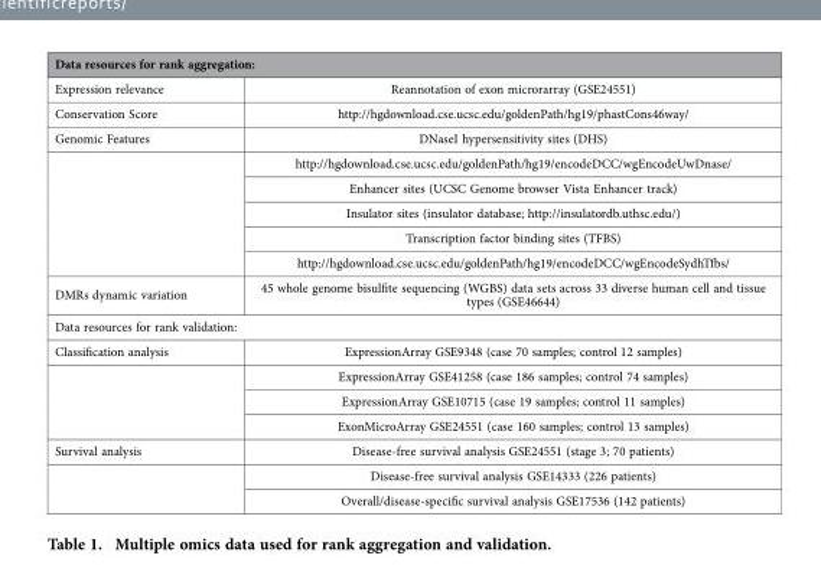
<table><thead><tr><td colspan="2">Data resources for rank aggregation:</td></tr><tr><td>Expression relevance</td><td>Reannotation of exon microrarray (GSE24551)</td></tr></thead><tbody><tr><td>Conservation Score</td><td>http://hgdownload.cse.ucsc.edu/goldenPath/hg19/phastCons46way/</td></tr><tr><td rowspan="6">Genomic Features</td><td>DNaseI hypersensitivity sites (DHS)</td></tr><tr><td>http://hgdownload.cse.ucsc.edu/goldenPath/hg19/encodeDCC/wgEncodeUwDnase/</td></tr><tr><td>Enhancer sites (UCSC Genome browser Vista Enhancer track)</td></tr><tr><td>Insulator sites (insulator database; http://insulatordb.uthsc.edu/)</td></tr><tr><td>Transcription factor binding sites (TFBS)</td></tr><tr><td>http://hgdownload.cse.ucsc.edu/goldenPath/hg19/encodeDCC/wgEncodeSydhTfbs/</td></tr><tr><td>DMRs dynamic variation</td><td>45 whole genome bisulfite sequencing (WGBS) data sets across 33 diverse human cell and tissue types (GSE46644)</td></tr><tr><td colspan="2">Data resources for rank validation:</td></tr><tr><td rowspan="4">Classification analysis</td><td>ExpressionArray GSE9348 (case 70 samples; control 12 samples)</td></tr><tr><td>ExpressionArray GSE41258 (case 186 samples; control 74 samples)</td></tr><tr><td>ExpressionArray GSE10715 (case 19 samples; control 11 samples)</td></tr><tr><td>ExonMicroArray GSE24551 (case 160 samples; control 13 samples)</td></tr><tr><td rowspan="3">Survival analysis</td><td>Disease-free survival analysis GSE24551 (stage 3; 70 patients)</td></tr><tr><td>Disease-free survival analysis GSE14333 (226 patients)</td></tr><tr><td>Overall/disease-specific survival analysis GSE17536 (142 patients)</td></tr></tbody></table>